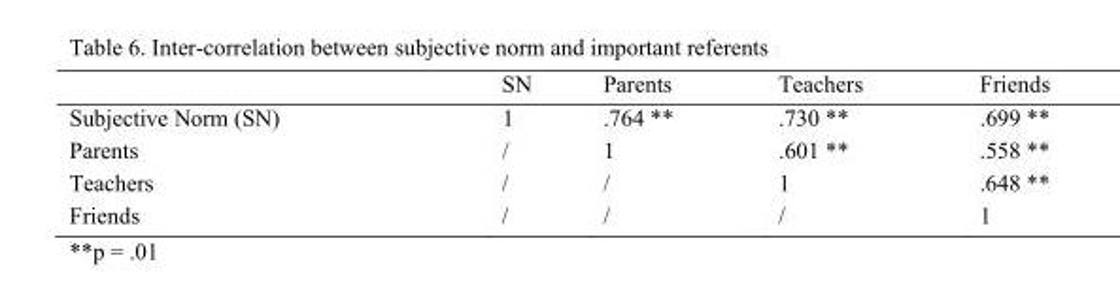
<table><thead><tr><td></td><td>SN</td><td>Parents</td><td>Teachers</td><td>Friends</td></tr></thead><tbody><tr><td>Subjective Norm (SN)</td><td>1</td><td>.764 **</td><td>.730 **</td><td>.699 **</td></tr><tr><td>Parents</td><td>/</td><td>1</td><td>.601 **</td><td>.558 **</td></tr><tr><td>Teachers</td><td>/</td><td>/</td><td>1</td><td>.648 **</td></tr><tr><td>Friends</td><td>/</td><td>/</td><td>/</td><td>1</td></tr></tbody></table>